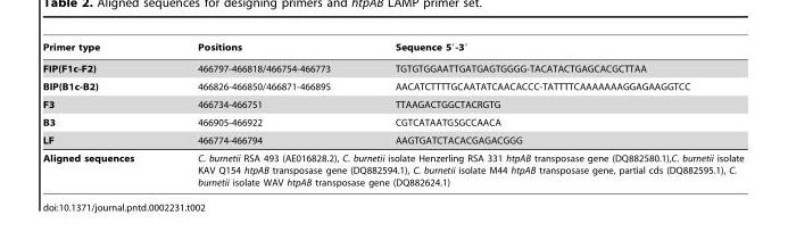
<table><thead><tr><td>Primer type</td><td>Positions</td><td>Sequence 5′-3′</td></tr></thead><tbody><tr><td>FIP(F1c-F2)</td><td>466797-466818/466754-466773</td><td>TGTGTGGAATTGATGAGTGGGG-TACATACTGAGCACGCTTAA</td></tr><tr><td>BIP(B1c-B2)</td><td>466826-466850/466871-466895</td><td>AACATCTTTTGCAATATCAACACCC-TATTTTCAAAAAAAGGAGAAGGTCC</td></tr><tr><td>F3</td><td>466734-466751</td><td>TTAAGACTGGCTACRGTG</td></tr><tr><td>B3</td><td>466905-466922</td><td>CGTCATAATGSGCCAACA</td></tr><tr><td>LF</td><td>466774-466794</td><td>AAGTGATCTACACGAGACGGG</td></tr><tr><td>Aligned sequences</td><td colspan="2">C. burnetii RSA 493 (AE016828.2), C. burnetii isolate Henzerling RSA 331 htpAB transposase gene (DQ882580.1),C. burnetii isolate KAV Q154 htpAB transposase gene (DQ882594.1), C. burnetii isolate M44 htpAB transposase gene, partial cds (DQ882595.1), C. burnetii isolate WAV htpAB transposase gene (DQ882624.1)</td></tr></tbody></table>